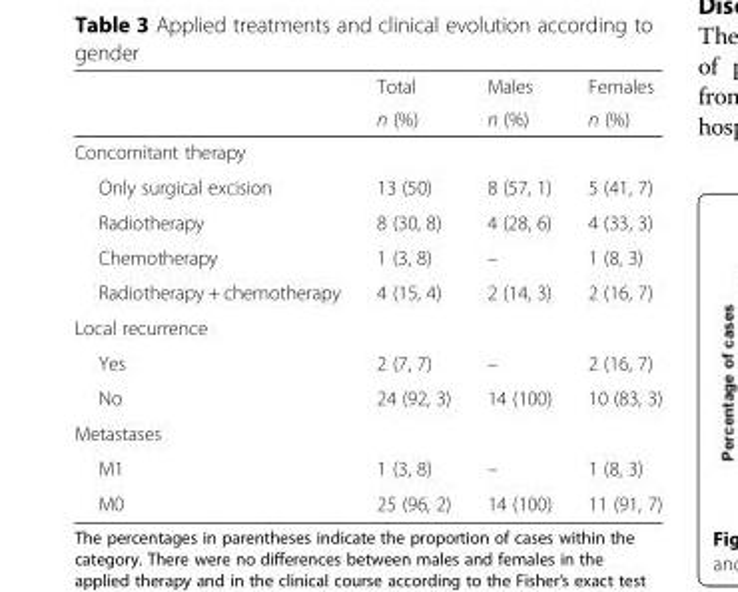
<table><thead><tr><td rowspan="2"></td><td rowspan="2">Total n (%)</td><td rowspan="2">Males n (%)</td><td rowspan="2">Females n (%)</td></tr><tr></tr></thead><tbody><tr><td colspan="4">Concomitant therapy</td></tr><tr><td>Only surgical excision</td><td>13 (50)</td><td>8 (57, 1)</td><td>5 (41, 7)</td></tr><tr><td>Radiotherapy</td><td>8 (30, 8)</td><td>4 (28, 6)</td><td>4 (33, 3)</td></tr><tr><td>Chemotherapy</td><td>1 (3, 8)</td><td>–</td><td>1 (8, 3)</td></tr><tr><td>Radiotherapy + chemotherapy</td><td>4 (15, 4)</td><td>2 (14, 3)</td><td>2 (16, 7)</td></tr><tr><td colspan="4">Local recurrence</td></tr><tr><td>Yes</td><td>2 (7, 7)</td><td>–</td><td>2 (16, 7)</td></tr><tr><td>No</td><td>24 (92, 3)</td><td>14 (100)</td><td>10 (83, 3)</td></tr><tr><td colspan="4">Metastases</td></tr><tr><td>M1</td><td>1 (3, 8)</td><td>–</td><td>1 (8, 3)</td></tr><tr><td>M0</td><td>25 (96, 2)</td><td>14 (100)</td><td>11 (91, 7)</td></tr></tbody></table>